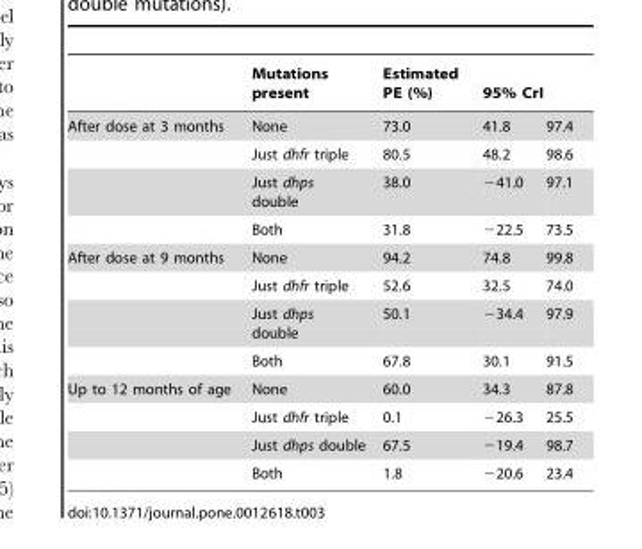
<table><thead><tr><td rowspan="2">After dose at 3 months</td><td rowspan="2">Mutations present None</td><td rowspan="2">Estimated PE (%) 73.0</td><td colspan="2">95% CrI</td></tr><tr><td>41.8</td><td>97.4</td></tr></thead><tbody><tr><td></td><td>Just dhfr triple</td><td>80.5</td><td>48.2</td><td>98.6</td></tr><tr><td></td><td>Just dhps double</td><td>38.0</td><td>−41.0</td><td>97.1</td></tr><tr><td></td><td>Both</td><td>31.8</td><td>−22.5</td><td>73.5</td></tr><tr><td rowspan="4">After dose at 9 months</td><td>None</td><td>94.2</td><td>74.8</td><td>99.8</td></tr><tr><td>Just dhfr triple</td><td>52.6</td><td>32.5</td><td>74.0</td></tr><tr><td>Just dhps double</td><td>50.1</td><td>−34.4</td><td>97.9</td></tr><tr><td>Both</td><td>67.8</td><td>30.1</td><td>91.5</td></tr><tr><td rowspan="4">Up to 12 months of age</td><td>None</td><td>60.0</td><td>34.3</td><td>87.8</td></tr><tr><td>Just dhfr triple</td><td>0.1</td><td>−26.3</td><td>25.5</td></tr><tr><td>Just dhps double</td><td>67.5</td><td>−19.4</td><td>98.7</td></tr><tr><td>Both</td><td>1.8</td><td>−20.6</td><td>23.4</td></tr></tbody></table>